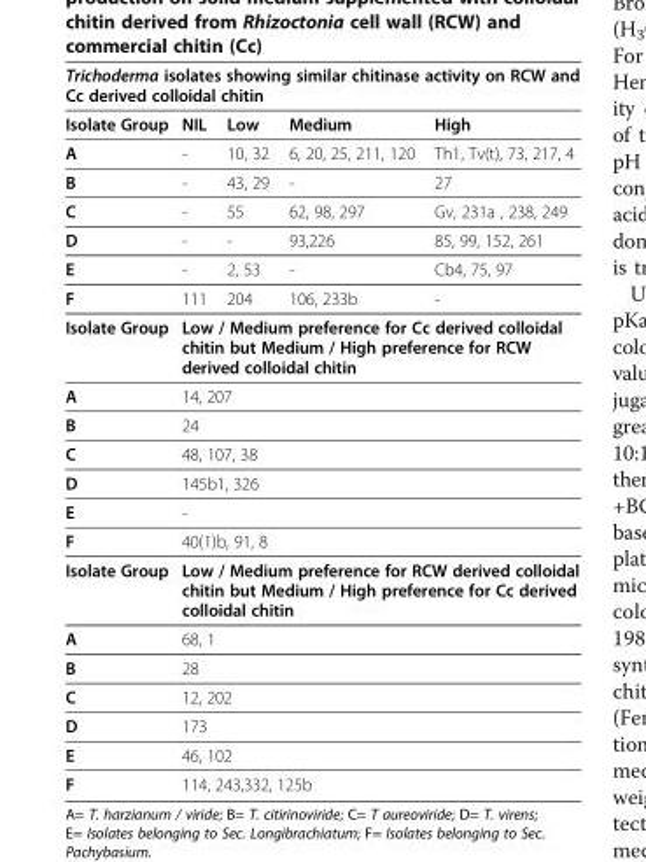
<table><thead><tr><td colspan="5">Trichoderma isolates showing similar chitinase activity on RCW and Cc derived colloidal chitin</td></tr><tr><td>Isolate Group</td><td>NIL</td><td>Low</td><td>Medium</td><td>High</td></tr></thead><tbody><tr><td>A</td><td>-</td><td>10, 32</td><td>6, 20, 25, 211, 120</td><td>Th1, Tv(t), 73, 217, 4</td></tr><tr><td>B</td><td>-</td><td>43, 29</td><td>-</td><td>27</td></tr><tr><td>C</td><td>-</td><td>55</td><td>62, 98, 297</td><td>Gv, 231a , 238, 249</td></tr><tr><td>D</td><td>-</td><td>-</td><td>93,226</td><td>85, 99, 152, 261</td></tr><tr><td>E</td><td>-</td><td>2, 53</td><td>-</td><td>Cb4, 75, 97</td></tr><tr><td>F</td><td>111</td><td>204</td><td>106, 233b</td><td>-</td></tr><tr><td>Isolate Group</td><td colspan="4">Low / Medium preference for Cc derived colloidal chitin but Medium / High preference for RCW derived colloidal chitin</td></tr><tr><td>A</td><td colspan="4">14, 207</td></tr><tr><td>B</td><td colspan="4">24</td></tr><tr><td>C</td><td colspan="4">48, 107, 38</td></tr><tr><td>D</td><td colspan="4">145b1, 326</td></tr><tr><td>E</td><td colspan="4">-</td></tr><tr><td>F</td><td colspan="4">40(1)b, 91, 8</td></tr><tr><td>Isolate Group</td><td colspan="4">Low / Medium preference for RCW derived colloidal chitin but Medium / High preference for Cc derived colloidal chitin</td></tr><tr><td>A</td><td colspan="4">68, 1</td></tr><tr><td>B</td><td colspan="4">28</td></tr><tr><td>C</td><td colspan="4">12, 202</td></tr><tr><td>D</td><td colspan="4">173</td></tr><tr><td>E</td><td colspan="4">46, 102</td></tr><tr><td>F</td><td colspan="4">114, 243,332, 125b</td></tr></tbody></table>